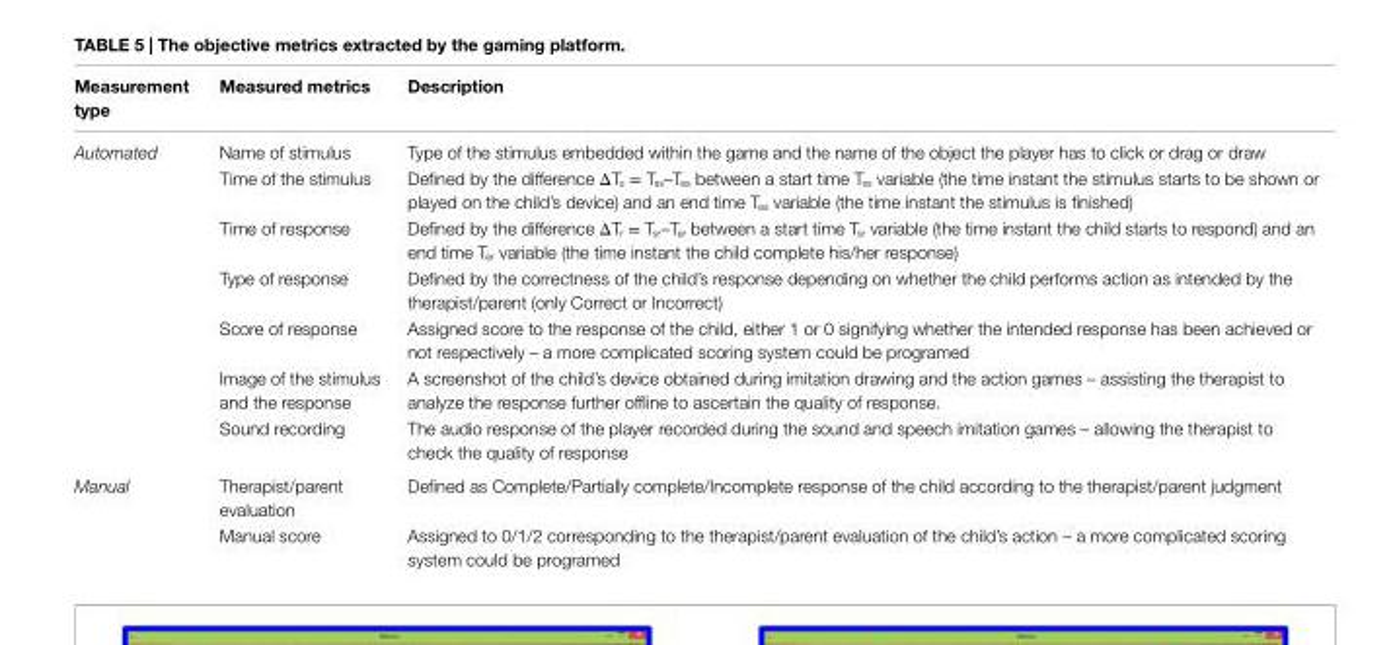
<table><thead><tr><td>Measurement type</td><td>Measured metrics</td><td>description</td></tr></thead><tbody><tr><td rowspan="7">Automated</td><td>Name of stimulus</td><td>Type of the stimulus embedded within the game and the name of the object the player has to click or drag or draw</td></tr><tr><td>Time of the stimulus</td><td>Defined by the difference ΔT<sub>s</sub> = T<sub>ss</sub>–T<sub>es</sub> between a start time T<sub>ss</sub> variable (the time instant the stimulus starts to be shown or played on the child’s device) and an end time T<sub>es</sub> variable (the time instant the stimulus is finished)</td></tr><tr><td>Time of response</td><td>Defined by the difference ΔT<sub>r</sub> = T<sub>sr</sub>–T<sub>er</sub> between a start time T<sub>sr</sub> variable (the time instant the child starts to respond) and an end time T<sub>er</sub> variable (the time instant the child complete his/her response)</td></tr><tr><td>Type of response</td><td>Defined by the correctness of the child’s response depending on whether the child performs action as intended by the therapist/parent (only Correct or Incorrect)</td></tr><tr><td>Score of response</td><td>Assigned score to the response of the child, either 1 or 0 signifying whether the intended response has been achieved or not respectively – a more complicated scoring system could be programed</td></tr><tr><td>Image of the stimulus and the response</td><td>A screenshot of the child’s device obtained during imitation drawing and the action games – assisting the therapist to analyze the response further offline to ascertain the quality of response.</td></tr><tr><td>Sound recording</td><td>The audio response of the player recorded during the sound and speech imitation games – allowing the therapist to check the quality of response</td></tr><tr><td rowspan="2">Manual</td><td>Therapist/parent evaluation</td><td>Defined as Complete/Partially complete/Incomplete response of the child according to the therapist/parent judgment</td></tr><tr><td>Manual score</td><td>Assigned to 0/1/2 corresponding to the therapist/parent evaluation of the child’s action – a more complicated scoring system could be programed</td></tr></tbody></table>